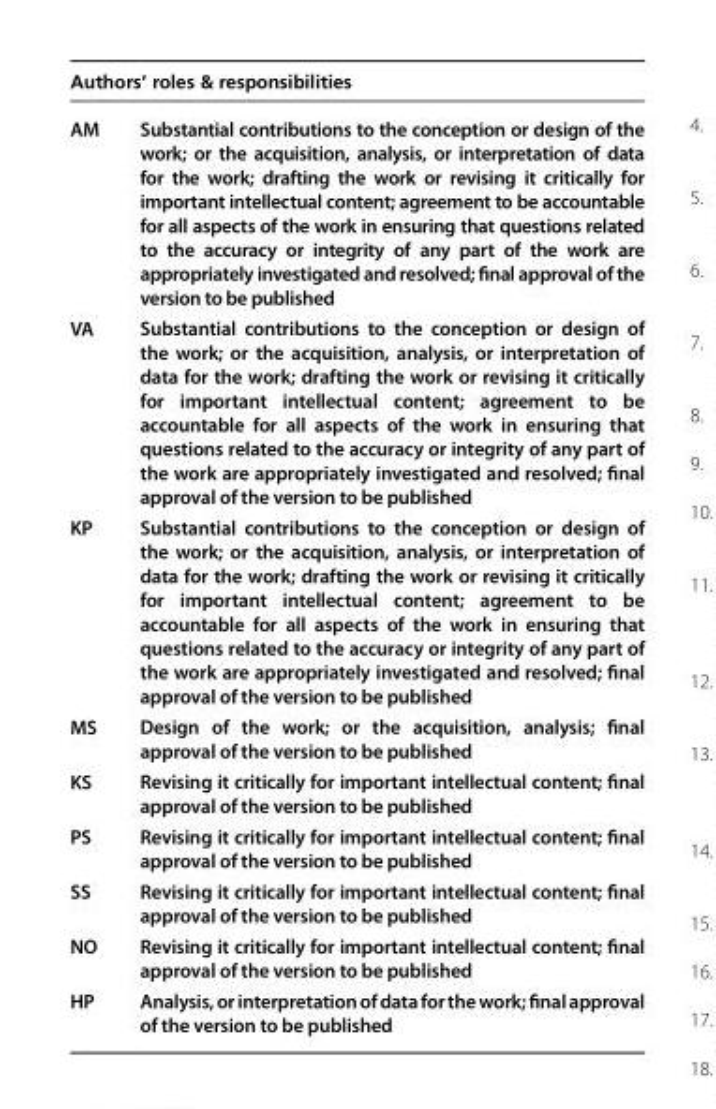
<table><thead><tr><td colspan="2">Authors’ roles &amp; responsibilities</td></tr><tr><td>AM</td><td>Substantial contributions to the conception or design of the work; or the acquisition, analysis, or interpretation of data for the work; drafting the work or revising it critically for important intellectual content; agreement to be accountable for all aspects of the work in ensuring that questions related to the accuracy or integrity of any part of the work are appropriately investigated and resolved; final approval of the version to be published</td></tr></thead><tbody><tr><td>VA</td><td>Substantial contributions to the conception or design of the work; or the acquisition, analysis, or interpretation of data for the work; drafting the work or revising it critically for important intellectual content; agreement to be accountable for all aspects of the work in ensuring that questions related to the accuracy or integrity of any part of the work are appropriately investigated and resolved; final approval of the version to be published</td></tr><tr><td>KP</td><td>Substantial contributions to the conception or design of the work; or the acquisition, analysis, or interpretation of data for the work; drafting the work or revising it critically for important intellectual content; agreement to be accountable for all aspects of the work in ensuring that questions related to the accuracy or integrity of any part of the work are appropriately investigated and resolved; final approval of the version to be published</td></tr><tr><td>MS</td><td>Design of the work; or the acquisition, analysis; final approval of the version to be published</td></tr><tr><td>KS</td><td>Revising it critically for important intellectual content; final approval of the version to be published</td></tr><tr><td>PS</td><td>Revising it critically for important intellectual content; final approval of the version to be published</td></tr><tr><td>SS</td><td>Revising it critically for important intellectual content; final approval of the version to be published</td></tr><tr><td>NO</td><td>Revising it critically for important intellectual content; final approval of the version to be published</td></tr><tr><td>HP</td><td>Analysis, or interpretation of data for the work; final approval of the version to be published</td></tr></tbody></table>